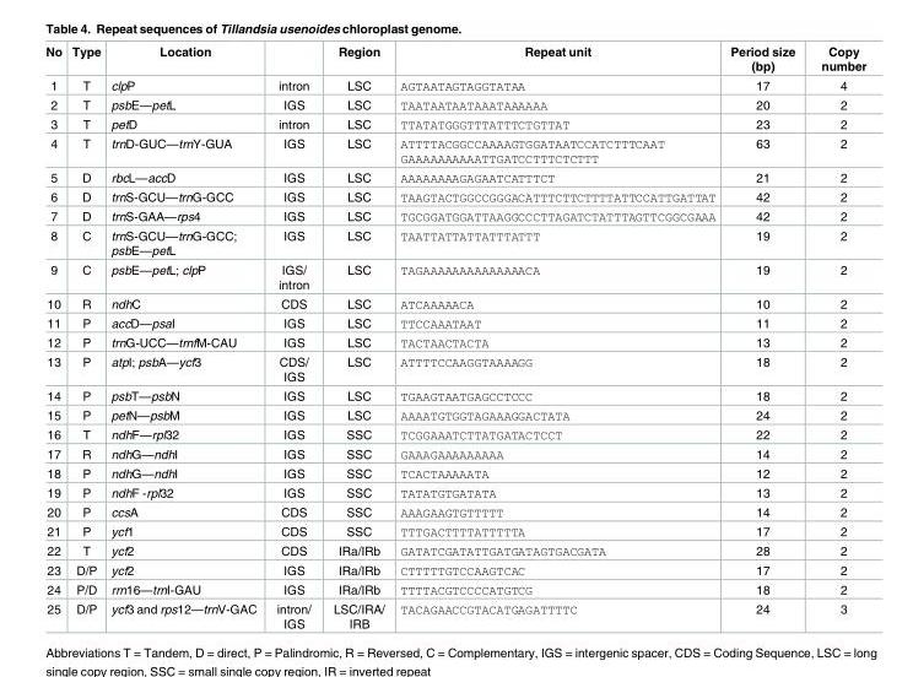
<table><thead><tr><td>No</td><td>Type</td><td>Location</td><td></td><td>Region</td><td>Repeat unit</td><td>Period size (bp)</td><td>Copy number</td></tr></thead><tbody><tr><td>1</td><td>T</td><td>clpP</td><td>intron</td><td>LSC</td><td>AGTAATAGTAGGTATAA</td><td>17</td><td>4</td></tr><tr><td>2</td><td>T</td><td>psbE—petL</td><td>IGS</td><td>LSC</td><td>TAATAATAATAAATAAAAAA</td><td>20</td><td>2</td></tr><tr><td>3</td><td>T</td><td>petD</td><td>intron</td><td>LSC</td><td>TTATATGGGTTTATTTCTGTTAT</td><td>23</td><td>2</td></tr><tr><td>4</td><td>T</td><td>trnD-GUC—trnY-GUA</td><td>IGS</td><td>LSC</td><td>ATTTTACGGCCAAAAGTGGATAATCCATCTTTCAAT GAAAAAAAAAATTGATCCTTTCTCTTT</td><td>63</td><td>2</td></tr><tr><td>5</td><td>D</td><td>rbcL—accD</td><td>IGS</td><td>LSC</td><td>AAAAAAAAGAGAATCATTTCT</td><td>21</td><td>2</td></tr><tr><td>6</td><td>D</td><td>trnS-GCU—trnG-GCC</td><td>IGS</td><td>LSC</td><td>TAAGTACTGGCCGGGACATTTCTTCTTTTATTCCATTGATTAT</td><td>42</td><td>2</td></tr><tr><td>7</td><td>D</td><td>trnS-GAA—rps4</td><td>IGS</td><td>LSC</td><td>TGCGGATGGATTAAGGCCCTTAGATCTATTTAGTTCGGCGAAA</td><td>42</td><td>2</td></tr><tr><td>8</td><td>C</td><td>trnS-GCU—trnG-GCC; psbE—petL</td><td>IGS</td><td>LSC</td><td>TAATTATTATTATTTATTT</td><td>19</td><td>2</td></tr><tr><td>9</td><td>C</td><td>psbE—petL; clpP</td><td>IGS/ intron</td><td>LSC</td><td>TAGAAAAAAAAAAAAAACA</td><td>19</td><td>2</td></tr><tr><td>10</td><td>R</td><td>ndhC</td><td>CDS</td><td>LSC</td><td>ATCAAAAACA</td><td>10</td><td>2</td></tr><tr><td>11</td><td>P</td><td>accD—psaI</td><td>IGS</td><td>LSC</td><td>TTCCAAATAAT</td><td>11</td><td>2</td></tr><tr><td>12</td><td>P</td><td>trnG-UCC—trnfM-CAU</td><td>IGS</td><td>LSC</td><td>TACTAACTACTA</td><td>13</td><td>2</td></tr><tr><td>13</td><td>P</td><td>atpI; psbA—ycf3</td><td>CDS/ IGS</td><td>LSC</td><td>ATTTTCCAAGGTAAAAGG</td><td>18</td><td>2</td></tr><tr><td>14</td><td>P</td><td>psbT—psbN</td><td>IGS</td><td>LSC</td><td>TGAAGTAATGAGCCTCCC</td><td>18</td><td>2</td></tr><tr><td>15</td><td>P</td><td>petN—psbM</td><td>IGS</td><td>LSC</td><td>AAAATGTGGTAGAAAGGACTATA</td><td>24</td><td>2</td></tr><tr><td>16</td><td>T</td><td>ndhF—rpl32</td><td>IGS</td><td>SSC</td><td>TCGGAAATCTTATGATACTCCT</td><td>22</td><td>2</td></tr><tr><td>17</td><td>R</td><td>ndhG—ndhI</td><td>IGS</td><td>SSC</td><td>GAAAGAAAAAAAAA</td><td>14</td><td>2</td></tr><tr><td>18</td><td>P</td><td>ndhG—ndhI</td><td>IGS</td><td>SSC</td><td>TCACTAAAAATA</td><td>12</td><td>2</td></tr><tr><td>19</td><td>P</td><td>ndhF -rpl32</td><td>IGS</td><td>SSC</td><td>TATATGTGATATA</td><td>13</td><td>2</td></tr><tr><td>20</td><td>P</td><td>ccsA</td><td>CDS</td><td>SSC</td><td>AAAGAAGTGTTTTT</td><td>14</td><td>2</td></tr><tr><td>21</td><td>P</td><td>ycf1</td><td>CDS</td><td>SSC</td><td>TTTGACTTTTATTTTTA</td><td>17</td><td>2</td></tr><tr><td>22</td><td>T</td><td>ycf2</td><td>CDS</td><td>IRa/IRb</td><td>GATATCGATATTGATGATAGTGACGATA</td><td>28</td><td>2</td></tr><tr><td>23</td><td>D/P</td><td>ycf2</td><td>IGS</td><td>IRa/IRb</td><td>CTTTTTGTCCAAGTCAC</td><td>17</td><td>2</td></tr><tr><td>24</td><td>P/D</td><td>rrn16—trnI-GAU</td><td>IGS</td><td>IRa/IRb</td><td>TTTTACGTCCCCATGTCG</td><td>18</td><td>2</td></tr><tr><td>25</td><td>D/P</td><td>ycf3 and rps12—trnV-GAC</td><td>intron/ IGS</td><td>LSC/IRA/ IRB</td><td>TACAGAACCGTACATGAGATTTTC</td><td>24</td><td>3</td></tr></tbody></table>